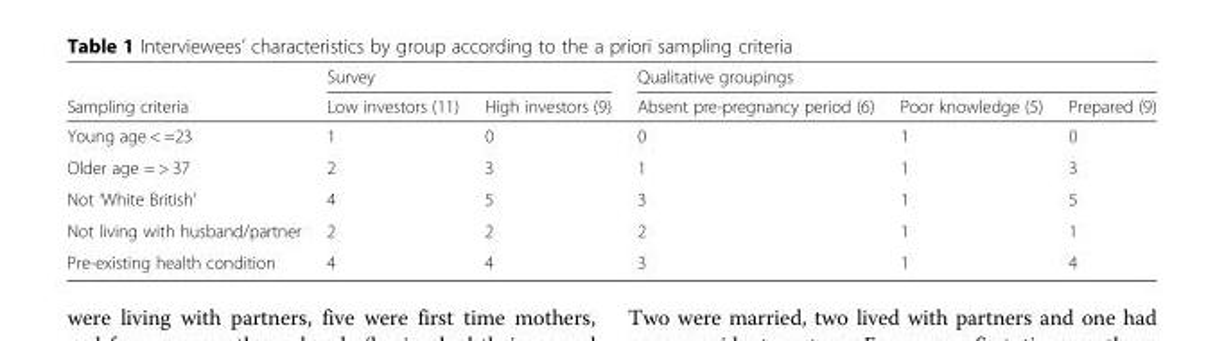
<table><thead><tr><td rowspan="2">Sampling criteria</td><td colspan="2">Survey</td><td colspan="3">Qualitative groupings</td></tr><tr><td>Low investors (11)</td><td>High investors (9)</td><td>Absent pre-pregnancy period (6)</td><td>Poor knowledge (5)</td><td>Prepared (9)</td></tr></thead><tbody><tr><td>Young age &lt; =23</td><td>1</td><td>0</td><td>0</td><td>1</td><td>0</td></tr><tr><td>Older age = &gt; 37</td><td>2</td><td>3</td><td>1</td><td>1</td><td>3</td></tr><tr><td>Not ‘White British’</td><td>4</td><td>5</td><td>3</td><td>1</td><td>5</td></tr><tr><td>Not living with husband/partner</td><td>2</td><td>2</td><td>2</td><td>1</td><td>1</td></tr><tr><td>Pre-existing health condition</td><td>4</td><td>4</td><td>3</td><td>1</td><td>4</td></tr></tbody></table>